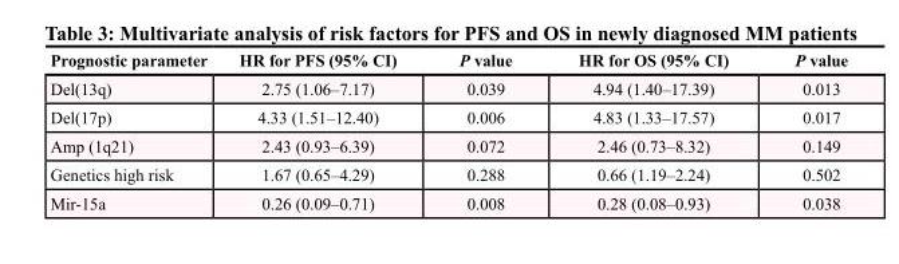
<table><thead><tr><td>Prognostic parameter</td><td>HR for PFS (95% CI)</td><td>P value</td><td>HR for OS (95% CI)</td><td>P value</td></tr></thead><tbody><tr><td>Del(13q)</td><td>2.75 (1.06–7.17)</td><td>0.039</td><td>4.94 (1.40–17.39)</td><td>0.013</td></tr><tr><td>Del(17p)</td><td>4.33 (1.51–12.40)</td><td>0.006</td><td>4.83 (1.33–17.57)</td><td>0.017</td></tr><tr><td>Amp (1q21)</td><td>2.43 (0.93–6.39)</td><td>0.072</td><td>2.46 (0.73–8.32)</td><td>0.149</td></tr><tr><td>Genetics high risk</td><td>1.67 (0.65–4.29)</td><td>0.288</td><td>0.66 (1.19–2.24)</td><td>0.502</td></tr><tr><td>Mir-15a</td><td>0.26 (0.09–0.71)</td><td>0.008</td><td>0.28 (0.08–0.93)</td><td>0.038</td></tr></tbody></table>